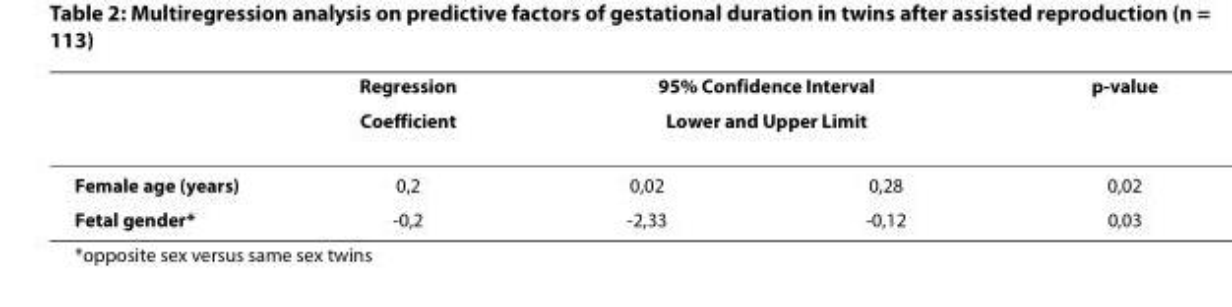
<table><thead><tr><td rowspan="3">Female age (years)</td><td rowspan="3">Regression Coefficient 0,2</td><td rowspan="2" colspan="2">95% Confidence Interval Lower and Upper Limit</td><td rowspan="3">p-value 0,02</td></tr><tr></tr><tr><td>0,02</td><td>0,28</td></tr></thead><tbody><tr><td>Fetal gender*</td><td>-0,2</td><td>-2,33</td><td>-0,12</td><td>0,03</td></tr></tbody></table>